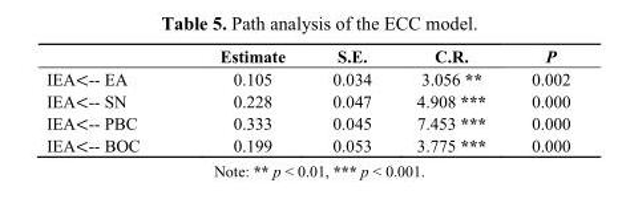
<table><thead><tr><td></td><td>Estimate</td><td>S.E.</td><td>C.R.</td><td>P</td></tr></thead><tbody><tr><td>IEA&lt;-- EA</td><td>0.105</td><td>0.034</td><td>3.056 **</td><td>0.002</td></tr><tr><td>IEA&lt;-- SN</td><td>0.228</td><td>0.047</td><td>4.908 ***</td><td>0.000</td></tr><tr><td>IEA&lt;-- PBC</td><td>0.333</td><td>0.045</td><td>7.453 ***</td><td>0.000</td></tr><tr><td>IEA&lt;-- BOC</td><td>0.199</td><td>0.053</td><td>3.775 ***</td><td>0.000</td></tr></tbody></table>